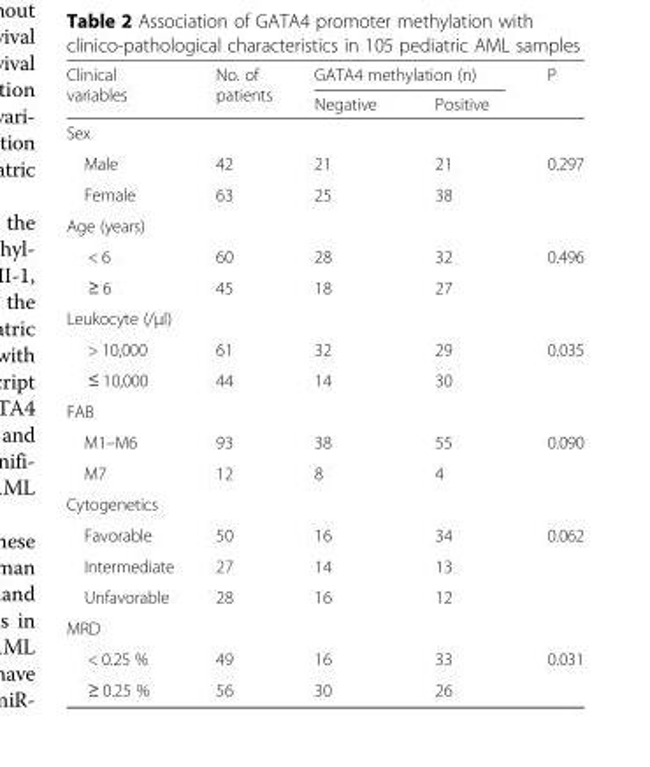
<table><thead><tr><td rowspan="2">Clinical variables</td><td rowspan="2">No. of patients</td><td colspan="2">GATA4 methylation (n)</td><td rowspan="2">P</td></tr><tr><td>Negative</td><td>Positive</td></tr></thead><tbody><tr><td colspan="5">Sex</td></tr><tr><td>Male</td><td>42</td><td>21</td><td>21</td><td>0.297</td></tr><tr><td>Female</td><td>63</td><td>25</td><td>38</td><td></td></tr><tr><td colspan="5">Age (years)</td></tr><tr><td>&lt; 6</td><td>60</td><td>28</td><td>32</td><td>0.496</td></tr><tr><td>≥ 6</td><td>45</td><td>18</td><td>27</td><td></td></tr><tr><td colspan="5">Leukocyte (/μl)</td></tr><tr><td>&gt; 10,000</td><td>61</td><td>32</td><td>29</td><td>0.035</td></tr><tr><td>≤ 10,000</td><td>44</td><td>14</td><td>30</td><td></td></tr><tr><td colspan="5">FAB</td></tr><tr><td>M1–M6</td><td>93</td><td>38</td><td>55</td><td>0.090</td></tr><tr><td>M7</td><td>12</td><td>8</td><td>4</td><td></td></tr><tr><td colspan="5">Cytogenetics</td></tr><tr><td>Favorable</td><td>50</td><td>16</td><td>34</td><td>0.062</td></tr><tr><td>Intermediate</td><td>27</td><td>14</td><td>13</td><td></td></tr><tr><td>Unfavorable</td><td>28</td><td>16</td><td>12</td><td></td></tr><tr><td colspan="5">MRD</td></tr><tr><td>&lt; 0.25 %</td><td>49</td><td>16</td><td>33</td><td>0.031</td></tr><tr><td>≥ 0.25 %</td><td>56</td><td>30</td><td>26</td><td></td></tr></tbody></table>